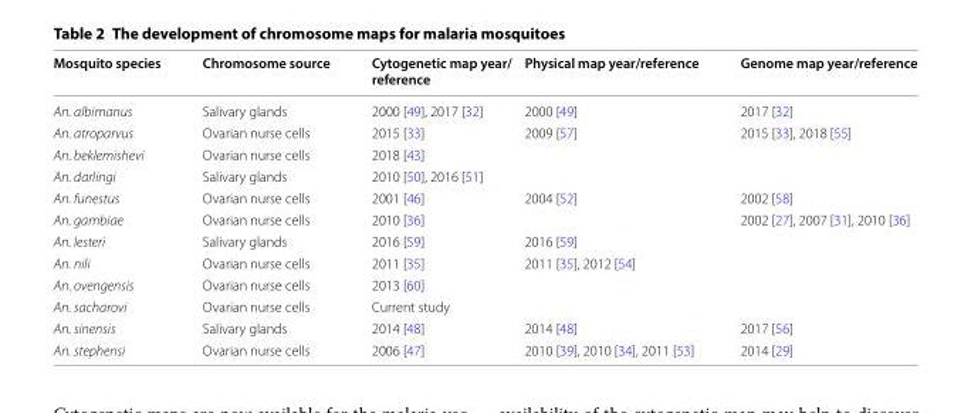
<table><thead><tr><td>Mosquito species</td><td>Chromosome source</td><td>Cytogenetic map year/ reference</td><td>Physical map year/reference</td><td>Genome map year/reference</td></tr></thead><tbody><tr><td>An. albimanus</td><td>Salivary glands</td><td>2000 [49], 2017 [32]</td><td>2000 [49]</td><td>2017 [32]</td></tr><tr><td>An. atroparvus</td><td>Ovarian nurse cells</td><td>2015 [33]</td><td>2009 [57]</td><td>2015 [33], 2018 [55]</td></tr><tr><td>An. beklemishevi</td><td>Ovarian nurse cells</td><td>2018 [43]</td><td></td><td></td></tr><tr><td>An. darlingi</td><td>Salivary glands</td><td>2010 [50], 2016 [51]</td><td></td><td></td></tr><tr><td>An. funestus</td><td>Ovarian nurse cells</td><td>2001 [46]</td><td>2004 [52]</td><td>2002 [58]</td></tr><tr><td>An. gambiae</td><td>Ovarian nurse cells</td><td>2010 [36]</td><td></td><td>2002 [27], 2007 [31], 2010 [36]</td></tr><tr><td>An. lesteri</td><td>Salivary glands</td><td>2016 [59]</td><td>2016 [59]</td><td></td></tr><tr><td>An. nili</td><td>Ovarian nurse cells</td><td>2011 [35]</td><td>2011 [35], 2012 [54]</td><td></td></tr><tr><td>An. ovengensis</td><td>Ovarian nurse cells</td><td>2013 [60]</td><td></td><td></td></tr><tr><td>An. sacharovi</td><td>Ovarian nurse cells</td><td>Current study</td><td></td><td></td></tr><tr><td>An. sinensis</td><td>Salivary glands</td><td>2014 [48]</td><td>2014 [48]</td><td>2017 [56]</td></tr><tr><td>An. stephensi</td><td>Ovarian nurse cells</td><td>2006 [47]</td><td>2010 [39], 2010 [34], 2011 [53]</td><td>2014 [29]</td></tr></tbody></table>